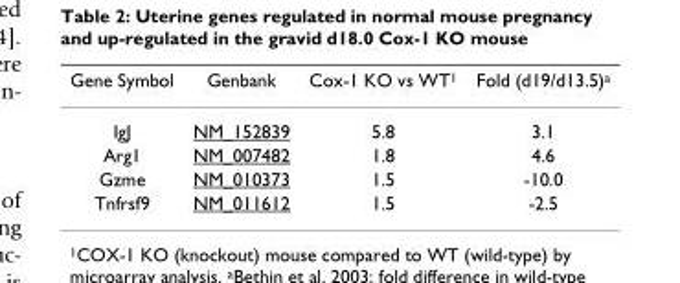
<table><thead><tr><td>Gene Symbol</td><td>Genbank</td><td>Cox-1 KO vs WT<sup>1</sup></td><td>Fold (d19/d13.5)<sup>a</sup></td></tr></thead><tbody><tr><td>IgJ</td><td>NM_152839</td><td>5.8</td><td>3.1</td></tr><tr><td>Arg1</td><td>NM_007482</td><td>1.8</td><td>4.6</td></tr><tr><td>Gzme</td><td>NM_010373</td><td>1.5</td><td>-10.0</td></tr><tr><td>Tnfrsf9</td><td>NM_011612</td><td>1.5</td><td>-2.5</td></tr></tbody></table>